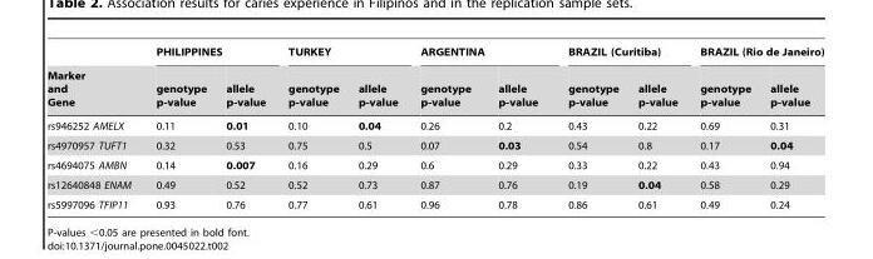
<table><thead><tr><td rowspan="2">Marker and Gene</td><td colspan="2">PHILIPPINES</td><td colspan="2">TURKEY</td><td colspan="2">ARGENTINA</td><td colspan="2">BRAZIL (Curitiba)</td><td colspan="2">BRAZIL (Rio de Janeiro)</td></tr><tr><td>genotype p-value</td><td>allele p-value</td><td>genotype p-value</td><td>allele p-value</td><td>genotype p-value</td><td>allele p-value</td><td>genotype p-value</td><td>allele p-value</td><td>genotype p-value</td><td>allele p-value</td></tr></thead><tbody><tr><td>rs946252 AMELX</td><td>0.11</td><td>0.01</td><td>0.10</td><td>0.04</td><td>0.26</td><td>0.2</td><td>0.43</td><td>0.22</td><td>0.69</td><td>0.31</td></tr><tr><td>rs4970957 TUFT1</td><td>0.32</td><td>0.53</td><td>0.75</td><td>0.5</td><td>0.07</td><td>0.03</td><td>0.54</td><td>0.8</td><td>0.17</td><td>0.04</td></tr><tr><td>rs4694075 AMBN</td><td>0.14</td><td>0.007</td><td>0.16</td><td>0.29</td><td>0.6</td><td>0.29</td><td>0.33</td><td>0.22</td><td>0.43</td><td>0.94</td></tr><tr><td>rs12640848 ENAM</td><td>0.49</td><td>0.52</td><td>0.52</td><td>0.73</td><td>0.87</td><td>0.76</td><td>0.19</td><td>0.04</td><td>0.58</td><td>0.29</td></tr><tr><td>rs5997096 TFIP11</td><td>0.93</td><td>0.76</td><td>0.77</td><td>0.61</td><td>0.96</td><td>0.78</td><td>0.86</td><td>0.61</td><td>0.49</td><td>0.24</td></tr></tbody></table>